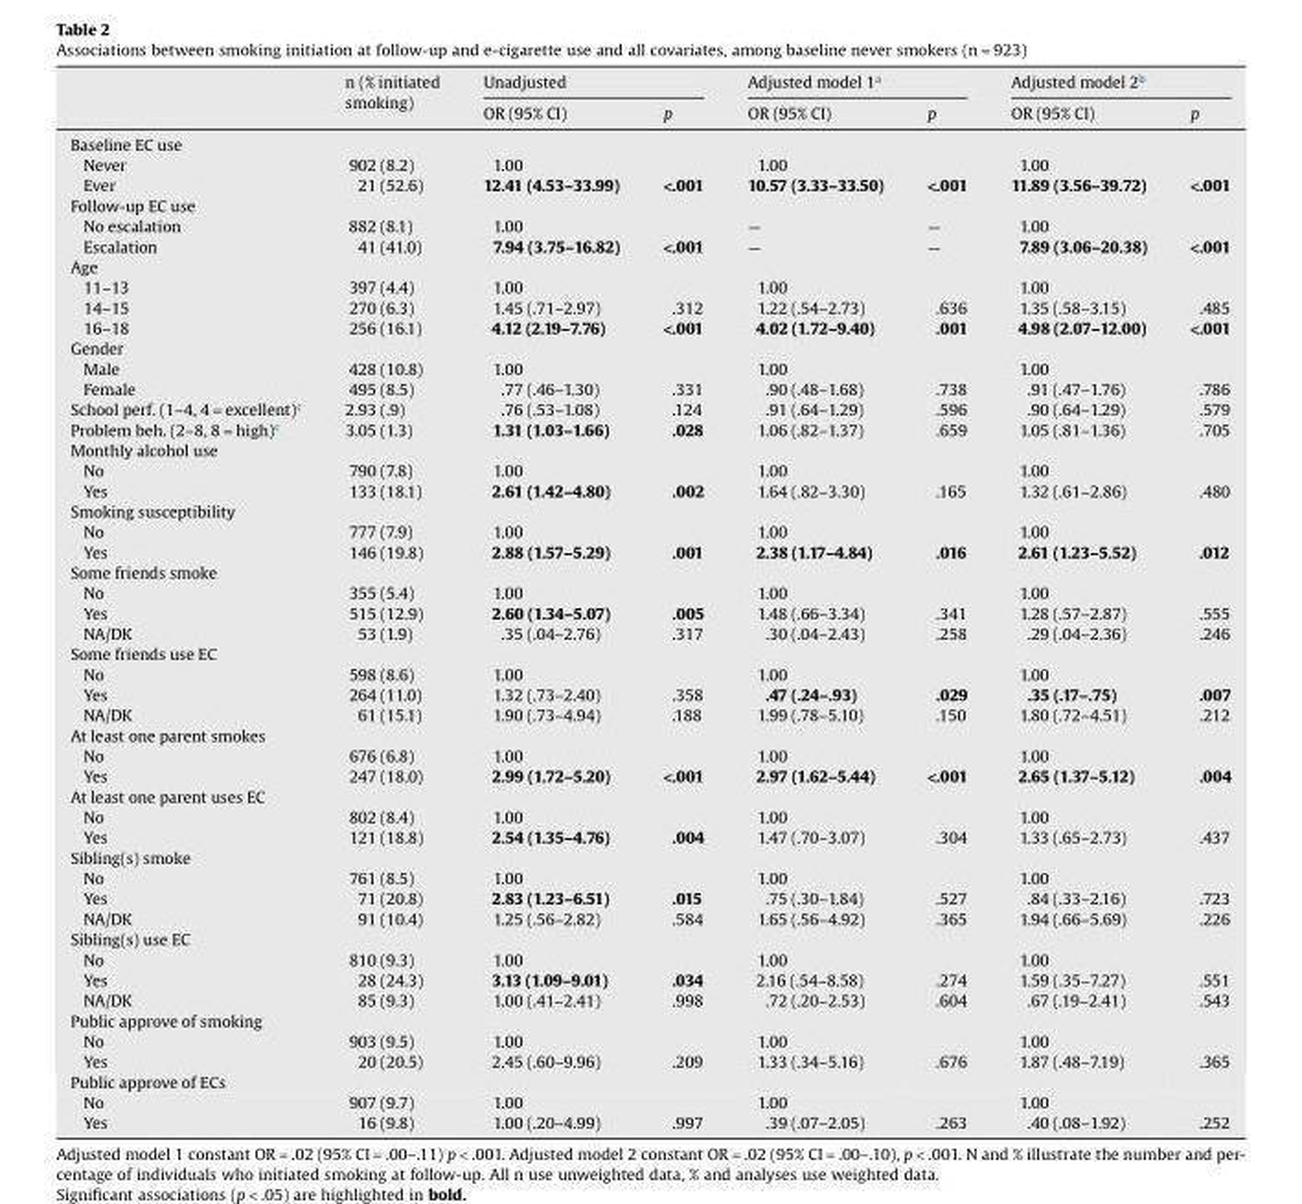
<table><thead><tr><td rowspan="2"></td><td rowspan="2">n (% initiated smoking)</td><td colspan="2">Unadjusted</td><td colspan="2">Adjusted model 1<sup>a</sup></td><td colspan="2">Adjusted model 2<sup>b</sup></td></tr><tr><td>OR (95% CI)</td><td>p</td><td>OR (95% CI)</td><td>p</td><td>OR (95% CI)</td><td>p</td></tr></thead><tbody><tr><td colspan="8">Baseline EC use</td></tr><tr><td>Never</td><td>902 (8.2)</td><td>1.00</td><td></td><td>1.00</td><td></td><td>1.00</td><td></td></tr><tr><td>Ever</td><td>21 (52.6)</td><td>12.41 (4.53–33.99)</td><td>&lt;.001</td><td>10.57 (3.33–33.50)</td><td>&lt;.001</td><td>11.89 (3.56–39.72)</td><td>&lt;.001</td></tr><tr><td colspan="8">Follow-up EC use</td></tr><tr><td>No escalation</td><td>882 (8.1)</td><td>1.00</td><td></td><td>—</td><td>—</td><td>1.00</td><td></td></tr><tr><td>Escalation</td><td>41 (41.0)</td><td>7.94 (3.75–16.82)</td><td>&lt;.001</td><td>—</td><td>—</td><td>7.89 (3.06–20.38)</td><td>&lt;.001</td></tr><tr><td colspan="8">Age</td></tr><tr><td>11–13</td><td>397 (4.4)</td><td>1.00</td><td></td><td>1.00</td><td></td><td>1.00</td><td></td></tr><tr><td>14–15</td><td>270 (6.3)</td><td>1.45 (.71–2.97)</td><td>.312</td><td>1.22 (.54–2.73)</td><td>.636</td><td>1.35 (.58–3.15)</td><td>.485</td></tr><tr><td>16–18</td><td>256 (16.1)</td><td>4.12 (2.19–7.76)</td><td>&lt;.001</td><td>4.02 (1.72–9.40)</td><td>.001</td><td>4.98 (2.07–12.00)</td><td>&lt;.001</td></tr><tr><td colspan="8">Gender</td></tr><tr><td>Male</td><td>428 (10.8)</td><td>1.00</td><td></td><td>1.00</td><td></td><td>1.00</td><td></td></tr><tr><td>Female</td><td>495 (8.5)</td><td>.77 (.46–1.30)</td><td>.331</td><td>.90 (.48–1.68)</td><td>.738</td><td>.91 (.47–1.76)</td><td>.786</td></tr><tr><td>School perf. (1–4, 4 = excellent)<sup>c</sup></td><td>2.93 (.9)</td><td>.76 (.53–1.08)</td><td>.124</td><td>.91 (.64–1.29)</td><td>.596</td><td>.90 (.64–1.29)</td><td>.579</td></tr><tr><td>Problem beh. (2–8, 8 = high)<sup>c</sup></td><td>3.05 (1.3)</td><td>1.31 (1.03–1.66)</td><td>.028</td><td>1.06 (.82–1.37)</td><td>.659</td><td>1.05 (.81–1.36)</td><td>.705</td></tr><tr><td colspan="8">Monthly alcohol use</td></tr><tr><td>No</td><td>790 (7.8)</td><td>1.00</td><td></td><td>1.00</td><td></td><td>1.00</td><td></td></tr><tr><td>Yes</td><td>133 (18.1)</td><td>2.61 (1.42–4.80)</td><td>.002</td><td>1.64 (.82–3.30)</td><td>.165</td><td>1.32 (.61–2.86)</td><td>.480</td></tr><tr><td colspan="8">Smoking susceptibility</td></tr><tr><td>No</td><td>777 (7.9)</td><td>1.00</td><td></td><td>1.00</td><td></td><td>1.00</td><td></td></tr><tr><td>Yes</td><td>146 (19.8)</td><td>2.88 (1.57–5.29)</td><td>.001</td><td>2.38 (1.17–4.84)</td><td>.016</td><td>2.61 (1.23–5.52)</td><td>.012</td></tr><tr><td colspan="8">Some friends smoke</td></tr><tr><td>No</td><td>355 (5.4)</td><td>1.00</td><td></td><td>1.00</td><td></td><td>1.00</td><td></td></tr><tr><td>Yes</td><td>515 (12.9)</td><td>2.60 (1.34–5.07)</td><td>.005</td><td>1.48 (.66–3.34)</td><td>.341</td><td>1.28 (.57–2.87)</td><td>.555</td></tr><tr><td>NA/DK</td><td>53 (1.9)</td><td>.35 (.04–2.76)</td><td>.317</td><td>.30 (.04–2.43)</td><td>.258</td><td>.29 (.04–2.36)</td><td>.246</td></tr><tr><td colspan="8">Some friends use EC</td></tr><tr><td>No</td><td>598 (8.6)</td><td>1.00</td><td></td><td>1.00</td><td></td><td>1.00</td><td></td></tr><tr><td>Yes</td><td>264 (11.0)</td><td>1.32 (.73–2.40)</td><td>.358</td><td>.47 (.24–.93)</td><td>.029</td><td>.35 (.17–.75)</td><td>.007</td></tr><tr><td>NA/DK</td><td>61 (15.1)</td><td>1.90 (.73–4.94)</td><td>.188</td><td>1.99 (.78–5.10)</td><td>.150</td><td>1.80 (.72–4.51)</td><td>.212</td></tr><tr><td colspan="8">At least one parent smokes</td></tr><tr><td>No</td><td>676 (6.8)</td><td>1.00</td><td></td><td>1.00</td><td></td><td>1.00</td><td></td></tr><tr><td>Yes</td><td>247 (18.0)</td><td>2.99 (1.72–5.20)</td><td>&lt;.001</td><td>2.97 (1.62–5.44)</td><td>&lt;.001</td><td>2.65 (1.37–5.12)</td><td>.004</td></tr><tr><td colspan="8">At least one parent uses EC</td></tr><tr><td>No</td><td>802 (8.4)</td><td>1.00</td><td></td><td>1.00</td><td></td><td>1.00</td><td></td></tr><tr><td>Yes</td><td>121 (18.8)</td><td>2.54 (1.35–4.76)</td><td>.004</td><td>1.47 (.70–3.07)</td><td>.304</td><td>1.33 (.65–2.73)</td><td>.437</td></tr><tr><td colspan="8">Sibling(s) smoke</td></tr><tr><td>No</td><td>761 (8.5)</td><td>1.00</td><td></td><td>1.00</td><td></td><td>1.00</td><td></td></tr><tr><td>Yes</td><td>71 (20.8)</td><td>2.83 (1.23–6.51)</td><td>.015</td><td>.75 (.30–1.84)</td><td>.527</td><td>.84 (.33–2.16)</td><td>.723</td></tr><tr><td>NA/DK</td><td>91 (10.4)</td><td>1.25 (.56–2.82)</td><td>.584</td><td>1.65 (.56–4.92)</td><td>.365</td><td>1.94 (.66–5.69)</td><td>.226</td></tr><tr><td colspan="8">Sibling(s) use EC</td></tr><tr><td>No</td><td>810 (9.3)</td><td>1.00</td><td></td><td>1.00</td><td></td><td>1.00</td><td></td></tr><tr><td>Yes</td><td>28 (24.3)</td><td>3.13 (1.09–9.01)</td><td>.034</td><td>2.16 (.54–8.58)</td><td>.274</td><td>1.59 (.35–7.27)</td><td>.551</td></tr><tr><td>NA/DK</td><td>85 (9.3)</td><td>1.00 (.41–2.41)</td><td>.998</td><td>.72 (.20–2.53)</td><td>.604</td><td>.67 (.19–2.41)</td><td>.543</td></tr><tr><td colspan="8">Public approve of smoking</td></tr><tr><td>No</td><td>903 (9.5)</td><td>1.00</td><td></td><td>1.00</td><td></td><td>1.00</td><td></td></tr><tr><td>Yes</td><td>20 (20.5)</td><td>2.45 (.60–9.96)</td><td>.209</td><td>1.33 (.34–5.16)</td><td>.676</td><td>1.87 (.48–7.19)</td><td>.365</td></tr><tr><td colspan="8">Public approve of ECs</td></tr><tr><td>No</td><td>907 (9.7)</td><td>1.00</td><td></td><td>1.00</td><td></td><td>1.00</td><td></td></tr><tr><td>Yes</td><td>16 (9.8)</td><td>1.00 (.20–4.99)</td><td>.997</td><td>.39 (.07–2.05)</td><td>.263</td><td>.40 (.08–1.92)</td><td>.252</td></tr></tbody></table>